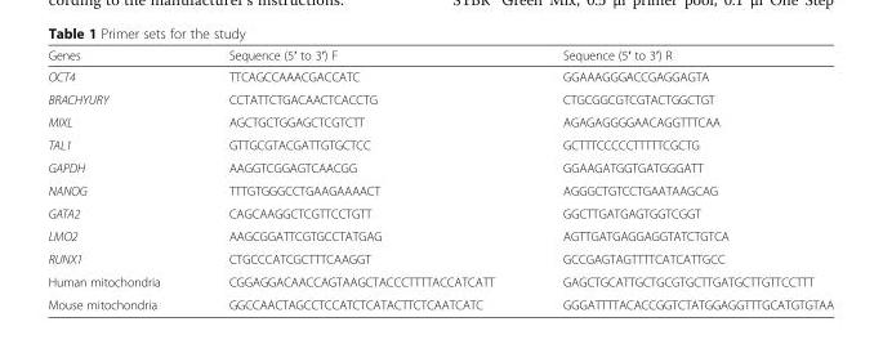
<table><thead><tr><td>Genes</td><td>Sequence (5′ to 3′) F</td><td>Sequence (5′ to 3′) R</td></tr></thead><tbody><tr><td>OCT4</td><td>TTCAGCCAAACGACCATC</td><td>GGAAAGGGACCGAGGAGTA</td></tr><tr><td>BRACHYURY</td><td>CCTATTCTGACAACTCACCTG</td><td>CTGCGGCGTCGTACTGGCTGT</td></tr><tr><td>MIXL</td><td>AGCTGCTGGAGCTCGTCTT</td><td>AGAGAGGGGAACAGGTTTCAA</td></tr><tr><td>TAL1</td><td>GTTGCGTACGATTGTGCTCC</td><td>GCTTTCCCCCTTTTTCGCTG</td></tr><tr><td>GAPDH</td><td>AAGGTCGGAGTCAACGG</td><td>GGAAGATGGTGATGGGATT</td></tr><tr><td>NANOG</td><td>TTTGTGGGCCTGAAGAAAACT</td><td>AGGGCTGTCCTGAATAAGCAG</td></tr><tr><td>GATA2</td><td>CAGCAAGGCTCGTTCCTGTT</td><td>GGCTTGATGAGTGGTCGGT</td></tr><tr><td>LMO2</td><td>AAGCGGATTCGTGCCTATGAG</td><td>AGTTGATGAGGAGGTATCTGTCA</td></tr><tr><td>RUNX1</td><td>CTGCCCATCGCTTTCAAGGT</td><td>GCCGAGTAGTTTTCATCATTGCC</td></tr><tr><td>Human mitochondria</td><td>CGGAGGACAACCAGTAAGCTACCCTTTTACCATCATT</td><td>GAGCTGCATTGCTGCGTGCTTGATGCTTGTTCCTTT</td></tr><tr><td>Mouse mitochondria</td><td>GGCCAACTAGCCTCCATCTCATACTTCTCAATCATC</td><td>GGGATTTTACACCGGTCTATGGAGGTTTGCATGTGTAA</td></tr></tbody></table>